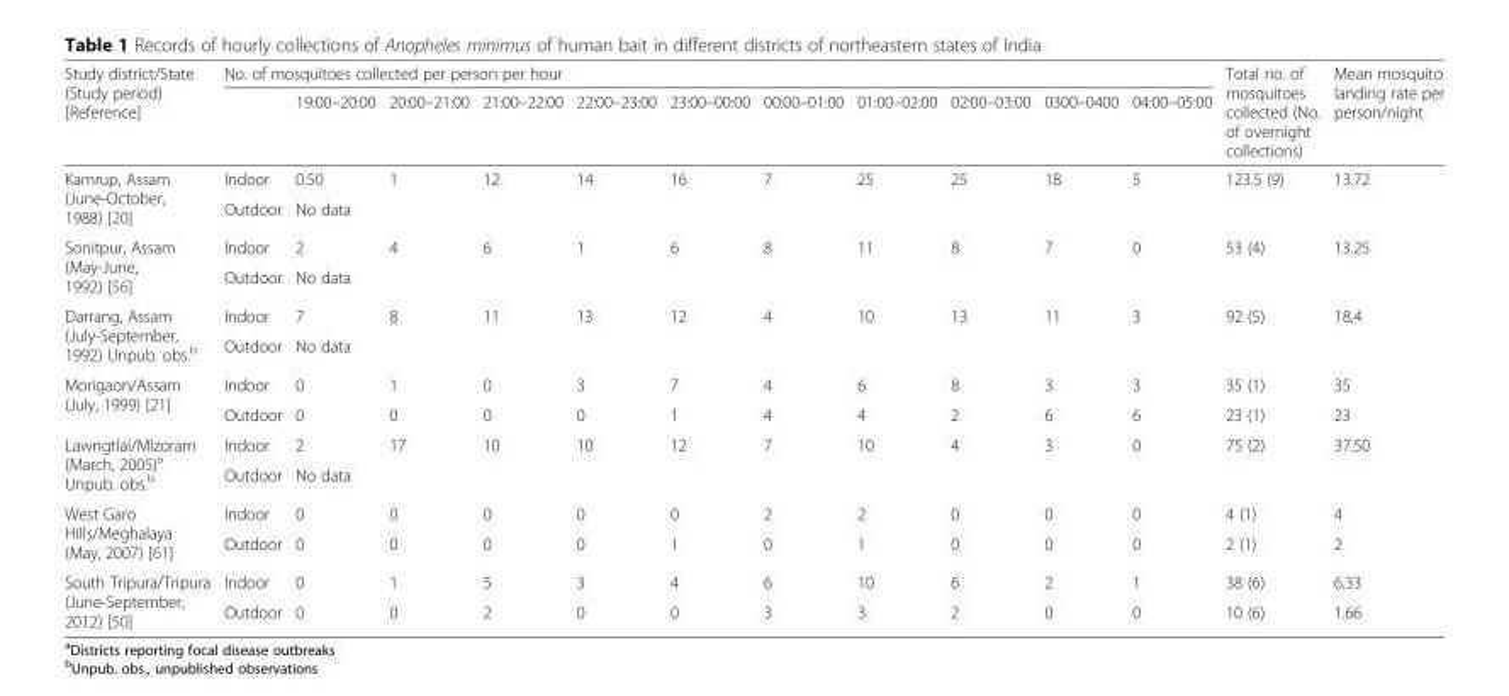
<table><thead><tr><td rowspan="2">Study district/State (Study period) [Reference]</td><td colspan="11">No. of mosquitoes collected per person per hour</td><td rowspan="2">Total no. of mosquitoes collected (No. of overnight collections)</td><td rowspan="2">Mean mosquito landing rate per person/night</td></tr><tr><td></td><td>19:00–20:00</td><td>20:00–21:00</td><td>21:00–22:00</td><td>22:00–23:00</td><td>23:00–00:00</td><td>00:00–01:00</td><td>01:00–02:00</td><td>02:00–03:00</td><td>0300–0400</td><td>04:00–05:00</td></tr></thead><tbody><tr><td rowspan="2">Kamrup, Assam (June-October, 1988) [20]</td><td>Indoor</td><td>0.50</td><td>1</td><td>12</td><td>14</td><td>16</td><td>7</td><td>25</td><td>25</td><td>18</td><td>5</td><td>123.5 (9)</td><td>13.72</td></tr><tr><td>Outdoor</td><td colspan="11">No data</td><td></td></tr><tr><td rowspan="2">Sonitpur, Assam (May-June, 1992) [56]</td><td>Indoor</td><td>2</td><td>4</td><td>6</td><td>1</td><td>6</td><td>8</td><td>11</td><td>8</td><td>7</td><td>0</td><td>53 (4)</td><td>13.25</td></tr><tr><td>Outdoor</td><td colspan="11">No data</td><td></td></tr><tr><td rowspan="2">Darrang, Assam (July-September, 1992) Unpub. obs.<sup>b</sup></td><td>Indoor</td><td>7</td><td>8</td><td>11</td><td>13</td><td>12</td><td>4</td><td>10</td><td>13</td><td>11</td><td>3</td><td>92 (5)</td><td>18.4</td></tr><tr><td>Outdoor</td><td colspan="11">No data</td><td></td></tr><tr><td rowspan="2">Morigaon/Assam (July, 1999) [21]</td><td>Indoor</td><td>0</td><td>1</td><td>0</td><td>3</td><td>7</td><td>4</td><td>6</td><td>8</td><td>3</td><td>3</td><td>35 (1)</td><td>35</td></tr><tr><td>Outdoor</td><td>0</td><td>0</td><td>0</td><td>0</td><td>1</td><td>4</td><td>4</td><td>2</td><td>6</td><td>6</td><td>23 (1)</td><td>23</td></tr><tr><td rowspan="2">Lawngtlai/Mizoram (March, 2005)<sup>a</sup> Unpub. obs.<sup>b</sup></td><td>Indoor</td><td>2</td><td>17</td><td>10</td><td>10</td><td>12</td><td>7</td><td>10</td><td>4</td><td>3</td><td>0</td><td>75 (2)</td><td>37.50</td></tr><tr><td>Outdoor</td><td colspan="11">No data</td><td></td></tr><tr><td rowspan="2">West Garo Hills/Meghalaya (May, 2007) [61]</td><td>Indoor</td><td>0</td><td>0</td><td>0</td><td>0</td><td>0</td><td>2</td><td>2</td><td>0</td><td>0</td><td>0</td><td>4 (1)</td><td>4</td></tr><tr><td>Outdoor</td><td>0</td><td>0</td><td>0</td><td>0</td><td>1</td><td>0</td><td>1</td><td>0</td><td>0</td><td>0</td><td>2 (1)</td><td>2</td></tr><tr><td rowspan="2">South Tripura/Tripura (June-September, 2012) [50]</td><td>Indoor</td><td>0</td><td>1</td><td>5</td><td>3</td><td>4</td><td>6</td><td>10</td><td>6</td><td>2</td><td>1</td><td>38 (6)</td><td>6.33</td></tr><tr><td>Outdoor</td><td>0</td><td>0</td><td>2</td><td>0</td><td>0</td><td>3</td><td>3</td><td>2</td><td>0</td><td>0</td><td>10 (6)</td><td>1.66</td></tr></tbody></table>